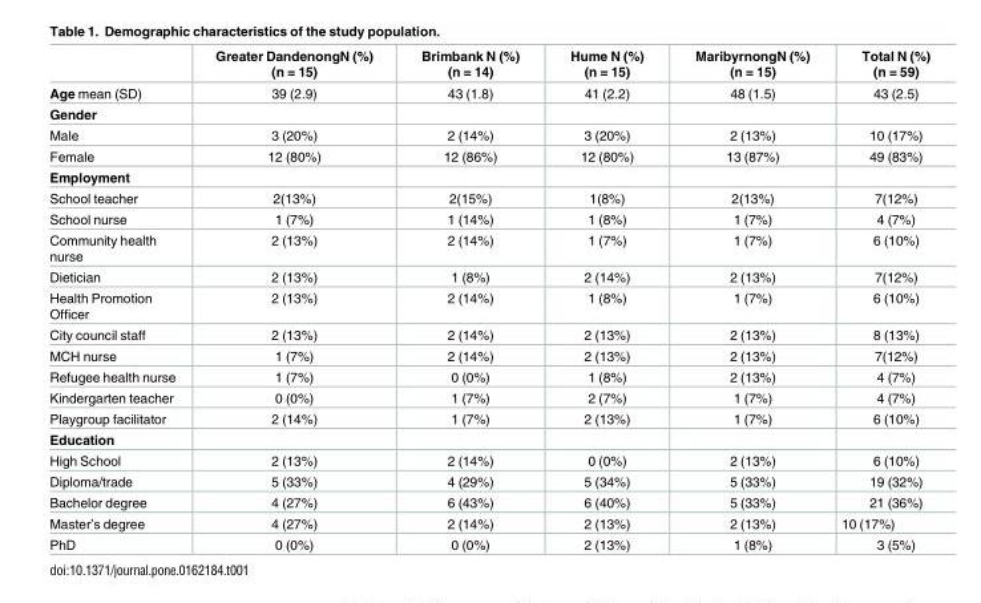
<table><thead><tr><td></td><td>Greater DandenongN (%) (n = 15)</td><td>Brimbank N (%) (n = 14)</td><td>Hume N (%) (n = 15)</td><td>MaribyrnongN (%) (n = 15)</td><td>Total N (%) (n = 59)</td></tr></thead><tbody><tr><td>Age mean (SD)</td><td>39 (2.9)</td><td>43 (1.8)</td><td>41 (2.2)</td><td>48 (1.5)</td><td>43 (2.5)</td></tr><tr><td colspan="6">Gender</td></tr><tr><td>Male</td><td>3 (20%)</td><td>2 (14%)</td><td>3 (20%)</td><td>2 (13%)</td><td>10 (17%)</td></tr><tr><td>Female</td><td>12 (80%)</td><td>12 (86%)</td><td>12 (80%)</td><td>13 (87%)</td><td>49 (83%)</td></tr><tr><td colspan="6">Employment</td></tr><tr><td>School teacher</td><td>2(13%)</td><td>2(15%)</td><td>1(8%)</td><td>2(13%)</td><td>7(12%)</td></tr><tr><td>School nurse</td><td>1 (7%)</td><td>1 (14%)</td><td>1 (8%)</td><td>1 (7%)</td><td>4 (7%)</td></tr><tr><td>Community health nurse</td><td>2 (13%)</td><td>2 (14%)</td><td>1 (7%)</td><td>1 (7%)</td><td>6 (10%)</td></tr><tr><td>Dietician</td><td>2 (13%)</td><td>1 (8%)</td><td>2 (14%)</td><td>2 (13%)</td><td>7(12%)</td></tr><tr><td>Health Promotion Officer</td><td>2 (13%)</td><td>2 (14%)</td><td>1 (8%)</td><td>1 (7%)</td><td>6 (10%)</td></tr><tr><td>City council staff</td><td>2 (13%)</td><td>2 (14%)</td><td>2 (13%)</td><td>2 (13%)</td><td>8 (13%)</td></tr><tr><td>MCH nurse</td><td>1 (7%)</td><td>2 (14%)</td><td>2 (13%)</td><td>2 (13%)</td><td>7(12%)</td></tr><tr><td>Refugee health nurse</td><td>1 (7%)</td><td>0 (0%)</td><td>1 (8%)</td><td>2 (13%)</td><td>4 (7%)</td></tr><tr><td>Kindergarten teacher</td><td>0 (0%)</td><td>1 (7%)</td><td>2 (7%)</td><td>1 (7%)</td><td>4 (7%)</td></tr><tr><td>Playgroup facilitator</td><td>2 (14%)</td><td>1 (7%)</td><td>2 (13%)</td><td>1 (7%)</td><td>6 (10%)</td></tr><tr><td colspan="6">Education</td></tr><tr><td>High School</td><td>2 (13%)</td><td>2 (14%)</td><td>0 (0%)</td><td>2 (13%)</td><td>6 (10%)</td></tr><tr><td>Diploma/trade</td><td>5 (33%)</td><td>4 (29%)</td><td>5 (34%)</td><td>5 (33%)</td><td>19 (32%)</td></tr><tr><td>Bachelor degree</td><td>4 (27%)</td><td>6 (43%)</td><td>6 (40%)</td><td>5 (33%)</td><td>21 (36%)</td></tr><tr><td>Master’s degree</td><td>4 (27%)</td><td>2 (14%)</td><td>2 (13%)</td><td>2 (13%)</td><td>10 (17%)</td></tr><tr><td>PhD</td><td>0 (0%)</td><td>0 (0%)</td><td>2 (13%)</td><td>1 (8%)</td><td>3 (5%)</td></tr></tbody></table>